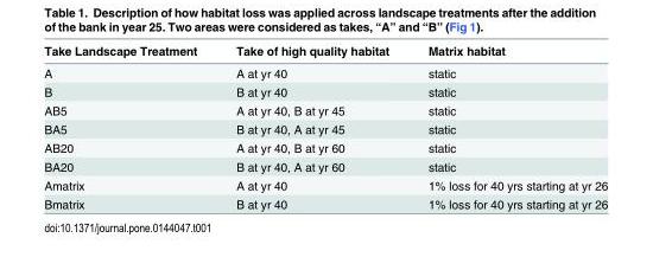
<table><thead><tr><td>Take Landscape Treatment</td><td>Take of high quality habitat</td><td>Matrix habitat</td></tr></thead><tbody><tr><td>A</td><td>A at yr 40</td><td>static</td></tr><tr><td>B</td><td>B at yr 40</td><td>static</td></tr><tr><td>AB5</td><td>A at yr 40, B at yr 45</td><td>static</td></tr><tr><td>BA5</td><td>B at yr 40, A at yr 45</td><td>static</td></tr><tr><td>AB20</td><td>A at yr 40, B at yr 60</td><td>static</td></tr><tr><td>BA20</td><td>B at yr 40, A at yr 60</td><td>static</td></tr><tr><td>Amatrix</td><td>A at yr 40</td><td>1% loss for 40 yrs starting at yr 26</td></tr><tr><td>Bmatrix</td><td>B at yr 40</td><td>1% loss for 40 yrs starting at yr 26</td></tr></tbody></table>